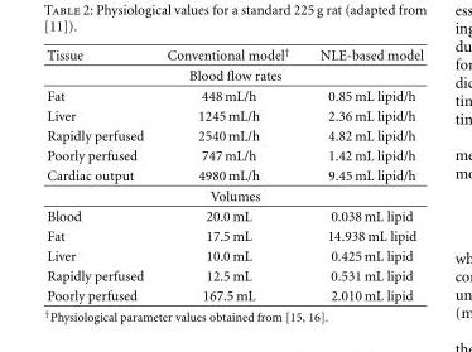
<table><thead><tr><td>Tissue</td><td>Conventional model<sup>†</sup></td><td>NLE-based model</td></tr></thead><tbody><tr><td colspan="3">Blood flow rates</td></tr><tr><td>Fat</td><td>448 mL/h</td><td>0.85 mL lipid/h</td></tr><tr><td>Liver</td><td>1245 mL/h</td><td>2.36 mL lipid/h</td></tr><tr><td>Rapidly perfused</td><td>2540 mL/h</td><td>4.82 mL lipid/h</td></tr><tr><td>Poorly perfused</td><td>747 mL/h</td><td>1.42 mL lipid/h</td></tr><tr><td>Cardiac output</td><td>4980 mL/h</td><td>9.45 mL lipid/h</td></tr><tr><td colspan="3">Volumes</td></tr><tr><td>Blood</td><td>20.0 mL</td><td>0.038 mL lipid</td></tr><tr><td>Fat</td><td>17.5 mL</td><td>14.938 mL lipid</td></tr><tr><td>Liver</td><td>10.0 mL</td><td>0.425 mL lipid</td></tr><tr><td>Rapidly perfused</td><td>12.5 mL</td><td>0.531 mL lipid</td></tr><tr><td>Poorly perfused</td><td>167.5 mL</td><td>2.010 mL lipid</td></tr></tbody></table>